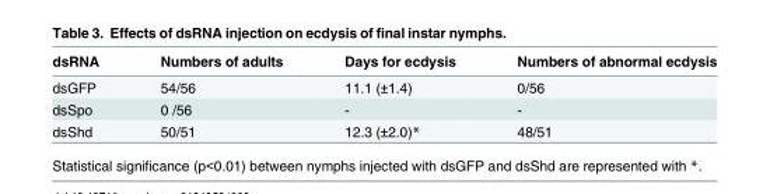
<table><thead><tr><td>dsRNA</td><td>Numbers of adults</td><td>Days for ecdysis</td><td>Numbers of abnormal ecdysis</td></tr></thead><tbody><tr><td>dsGFP</td><td>54/56</td><td>11.1 (±1.4)</td><td>0/56</td></tr><tr><td>dsSpo</td><td>0 /56</td><td>-</td><td>-</td></tr><tr><td>dsShd</td><td>50/51</td><td>12.3 (±2.0)*</td><td>48/51</td></tr></tbody></table>